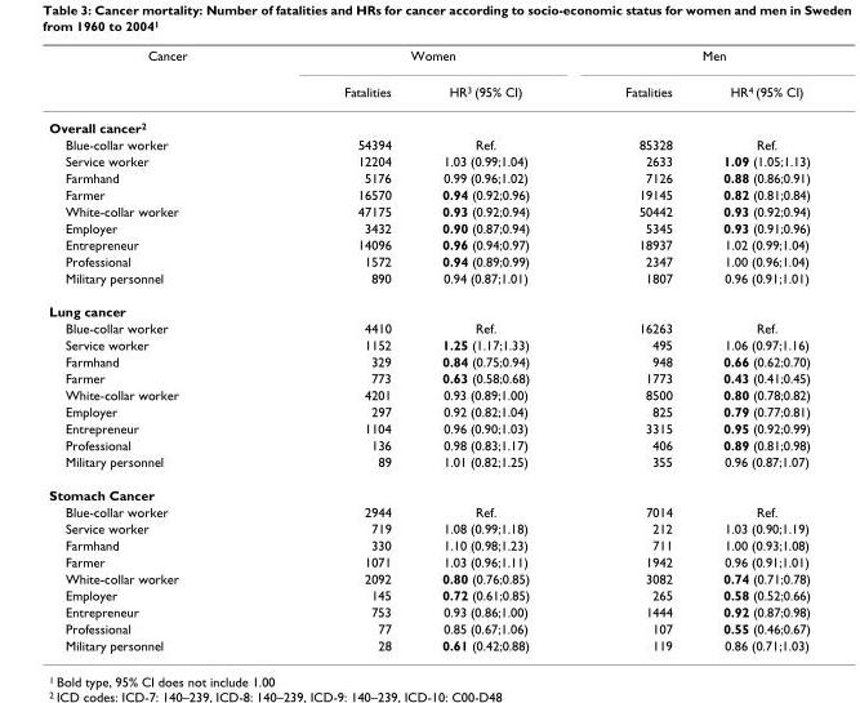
<table><thead><tr><td rowspan="2">Cancer</td><td colspan="2">Women</td><td colspan="2">Men</td></tr><tr><td>Fatalities</td><td>HR<sup>3</sup> (95% CI)</td><td>Fatalities</td><td>HR<sup>4</sup> (95% CI)</td></tr></thead><tbody><tr><td colspan="5">Overall cancer<sup>2</sup></td></tr><tr><td>Blue-collar worker</td><td>54394</td><td>Ref.</td><td>85328</td><td>Ref.</td></tr><tr><td>Service worker</td><td>12204</td><td>1.03 (0.99;1.04)</td><td>2633</td><td>1.09 (1.05;1.13)</td></tr><tr><td>Farmhand</td><td>5176</td><td>0.99 (0.96;1.02)</td><td>7126</td><td>0.88 (0.86;0.91)</td></tr><tr><td>Farmer</td><td>16570</td><td>0.94 (0.92;0.96)</td><td>19145</td><td>0.82 (0.81;0.84)</td></tr><tr><td>White-collar worker</td><td>47175</td><td>0.93 (0.92;0.94)</td><td>50442</td><td>0.93 (0.92;0.94)</td></tr><tr><td>Employer</td><td>3432</td><td>0.90 (0.87;0.94)</td><td>5345</td><td>0.93 (0.91;0.96)</td></tr><tr><td>Entrepreneur</td><td>14096</td><td>0.96 (0.94;0.97)</td><td>18937</td><td>1.02 (0.99;1.04)</td></tr><tr><td>Professional</td><td>1572</td><td>0.94 (0.89;0.99)</td><td>2347</td><td>1.00 (0.96;1.04)</td></tr><tr><td>Military personnel</td><td>890</td><td>0.94 (0.87;1.01)</td><td>1807</td><td>0.96 (0.91;1.01)</td></tr><tr><td colspan="5">Lung cancer</td></tr><tr><td>Blue-collar worker</td><td>4410</td><td>Ref.</td><td>16263</td><td>Ref.</td></tr><tr><td>Service worker</td><td>1152</td><td>1.25 (1.17;1.33)</td><td>495</td><td>1.06 (0.97;1.16)</td></tr><tr><td>Farmhand</td><td>329</td><td>0.84 (0.75;0.94)</td><td>948</td><td>0.66 (0.62;0.70)</td></tr><tr><td>Farmer</td><td>773</td><td>0.63 (0.58;0.68)</td><td>1773</td><td>0.43 (0.41;0.45)</td></tr><tr><td>White-collar worker</td><td>4201</td><td>0.93 (0.89;1.00)</td><td>8500</td><td>0.80 (0.78;0.82)</td></tr><tr><td>Employer</td><td>297</td><td>0.92 (0.82;1.04)</td><td>825</td><td>0.79 (0.77;0.81)</td></tr><tr><td>Entrepreneur</td><td>1104</td><td>0.96 (0.90;1.03)</td><td>3315</td><td>0.95 (0.92;0.99)</td></tr><tr><td>Professional</td><td>136</td><td>0.98 (0.83;1.17)</td><td>406</td><td>0.89 (0.81;0.98)</td></tr><tr><td>Military personnel</td><td>89</td><td>1.01 (0.82;1.25)</td><td>355</td><td>0.96 (0.87;1.07)</td></tr><tr><td colspan="5">Stomach Cancer</td></tr><tr><td>Blue-collar worker</td><td>2944</td><td>Ref.</td><td>7014</td><td>Ref.</td></tr><tr><td>Service worker</td><td>719</td><td>1.08 (0.99;1.18)</td><td>212</td><td>1.03 (0.90;1.19)</td></tr><tr><td>Farmhand</td><td>330</td><td>1.10 (0.98;1.23)</td><td>711</td><td>1.00 (0.93;1.08)</td></tr><tr><td>Farmer</td><td>1071</td><td>1.03 (0.96;1.11)</td><td>1942</td><td>0.96 (0.91;1.01)</td></tr><tr><td>White-collar worker</td><td>2092</td><td>0.80 (0.76;0.85)</td><td>3082</td><td>0.74 (0.71;0.78)</td></tr><tr><td>Employer</td><td>145</td><td>0.72 (0.61;0.85)</td><td>265</td><td>0.58 (0.52;0.66)</td></tr><tr><td>Entrepreneur</td><td>753</td><td>0.93 (0.86;1.00)</td><td>1444</td><td>0.92 (0.87;0.98)</td></tr><tr><td>Professional</td><td>77</td><td>0.85 (0.67;1.06)</td><td>107</td><td>0.55 (0.46;0.67)</td></tr><tr><td>Military personnel</td><td>28</td><td>0.61 (0.42;0.88)</td><td>119</td><td>0.86 (0.71;1.03)</td></tr></tbody></table>